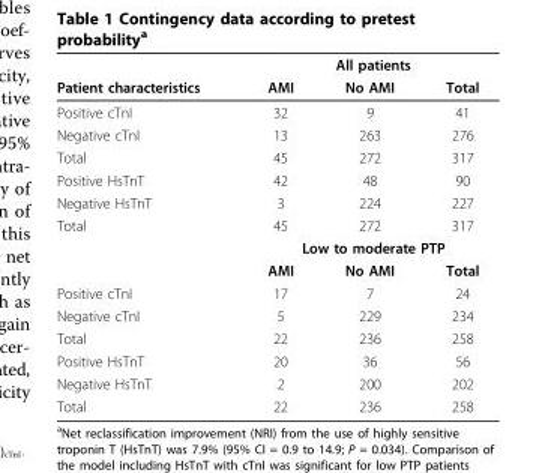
<table><thead><tr><td rowspan="2">Patient characteristics</td><td colspan="3">All patients</td></tr><tr><td>AMI</td><td>No AMI</td><td>Total</td></tr></thead><tbody><tr><td>Positive cTnI</td><td>32</td><td>9</td><td>41</td></tr><tr><td>Negative cTnI</td><td>13</td><td>263</td><td>276</td></tr><tr><td>Total</td><td>45</td><td>272</td><td>317</td></tr><tr><td>Positive HsTnT</td><td>42</td><td>48</td><td>90</td></tr><tr><td>Negative HsTnT</td><td>3</td><td>224</td><td>227</td></tr><tr><td rowspan="3">Total</td><td>45</td><td>272</td><td>317</td></tr><tr><td colspan="3">Low to moderate PTP</td></tr><tr><td>AMI</td><td>No AMI</td><td>Total</td></tr><tr><td>Positive cTnI</td><td>17</td><td>7</td><td>24</td></tr><tr><td>Negative cTnI</td><td>5</td><td>229</td><td>234</td></tr><tr><td>Total</td><td>22</td><td>236</td><td>258</td></tr><tr><td>Positive HsTnT</td><td>20</td><td>36</td><td>56</td></tr><tr><td>Negative HsTnT</td><td>2</td><td>200</td><td>202</td></tr><tr><td>Total</td><td>22</td><td>236</td><td>258</td></tr></tbody></table>